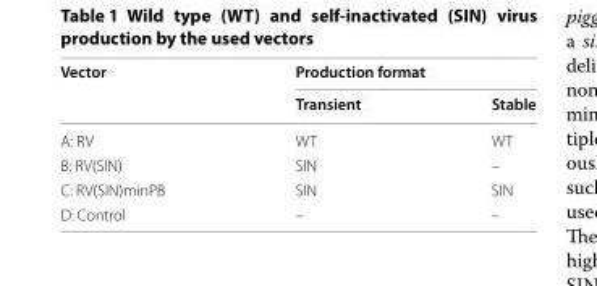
<table><thead><tr><td rowspan="2">Vector</td><td colspan="2">Production format</td></tr><tr><td>Transient</td><td>Stable</td></tr></thead><tbody><tr><td>A: RV</td><td>WT</td><td>WT</td></tr><tr><td>B: RV(SIN)</td><td>SIN</td><td>–</td></tr><tr><td>C: RV(SIN)minPB</td><td>SIN</td><td>SIN</td></tr><tr><td>D: Control</td><td>–</td><td>–</td></tr></tbody></table>